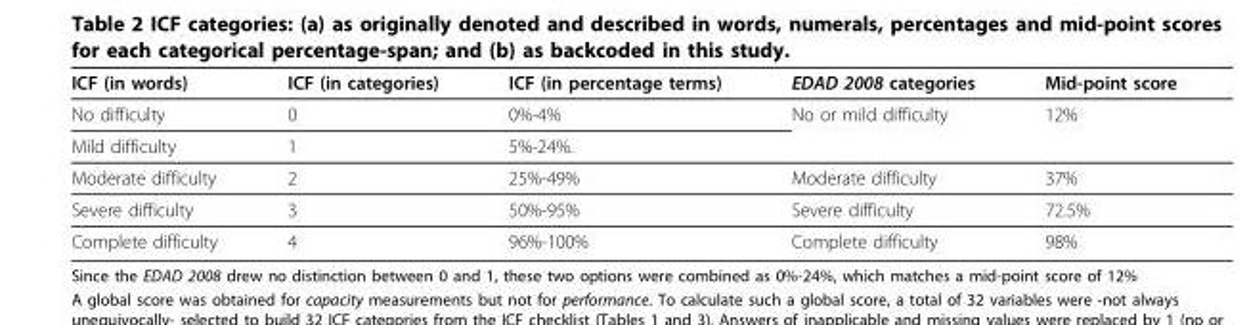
<table><thead><tr><td>ICF (in words)</td><td>ICF (in categories)</td><td>ICF (in percentage terms)</td><td>EDAD 2008 categories</td><td>Mid-point score</td></tr></thead><tbody><tr><td>No difficulty</td><td>0</td><td>0%-4%</td><td>No or mild difficulty</td><td>12%</td></tr><tr><td>Mild difficulty</td><td>1</td><td>5%-24%.</td><td></td><td></td></tr><tr><td>Moderate difficulty</td><td>2</td><td>25%-49%</td><td>Moderate difficulty</td><td>37%</td></tr><tr><td>Severe difficulty</td><td>3</td><td>50%-95%</td><td>Severe difficulty</td><td>72.5%</td></tr><tr><td>Complete difficulty</td><td>4</td><td>96%-100%</td><td>Complete difficulty</td><td>98%</td></tr></tbody></table>